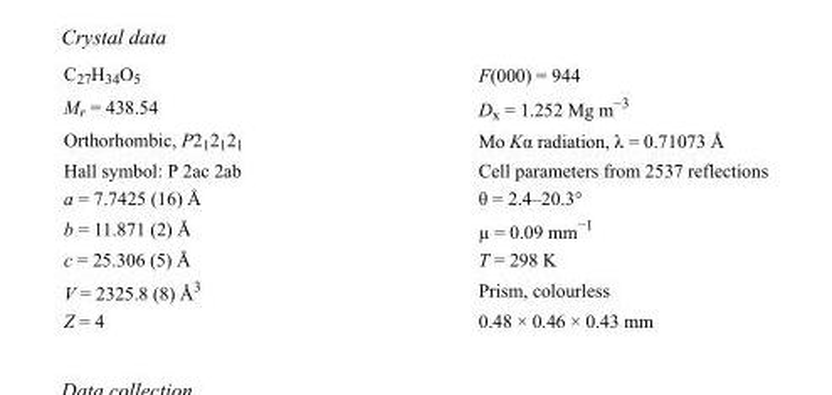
<table><tbody><tr><td>C<sub>27</sub>H<sub>34</sub>O<sub>5</sub></td><td>F(000) = 944</td></tr><tr><td>M<sub>r</sub> = 438.54</td><td>D<sub>x</sub> = 1.252 Mg m<sup>−3</sup></td></tr><tr><td>Orthorhombic, P2<sub>1</sub>2<sub>1</sub>2<sub>1</sub></td><td>Mo Kα radiation, λ = 0.71073 Å</td></tr><tr><td>Hall symbol: P 2ac 2ab</td><td>Cell parameters from 2537 reflections</td></tr><tr><td>a = 7.7425 (16) Å</td><td>θ = 2.4–20.3°</td></tr><tr><td>b = 11.871 (2) Å</td><td>µ = 0.09 mm<sup>−1</sup></td></tr><tr><td>c = 25.306 (5) Å</td><td>T = 298 K</td></tr><tr><td>V = 2325.8 (8) Å<sup>3</sup></td><td>Prism, colourless</td></tr><tr><td>Z = 4</td><td>0.48 × 0.46 × 0.43 mm</td></tr></tbody></table>